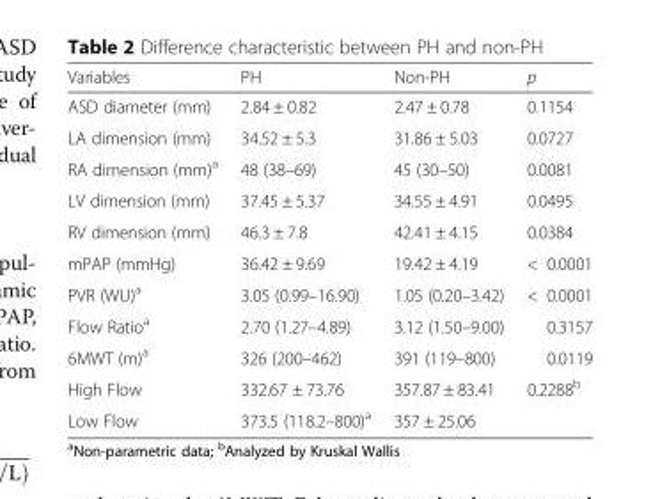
<table><thead><tr><td>Variables</td><td>PH</td><td>Non-PH</td><td>p</td></tr></thead><tbody><tr><td>ASD diameter (mm)</td><td>2.84 ± 0.82</td><td>2.47 ± 0.78</td><td>0.1154</td></tr><tr><td>LA dimension (mm)</td><td>34.52 ± 5.3</td><td>31.86 ± 5.03</td><td>0.0727</td></tr><tr><td>RA dimension (mm)<sup>a</sup></td><td>48 (38–69)</td><td>45 (30–50)</td><td>0.0081</td></tr><tr><td>LV dimension (mm)</td><td>37.45 ± 5.37</td><td>34.55 ± 4.91</td><td>0.0495</td></tr><tr><td>RV dimension (mm)</td><td>46.3 ± 7.8</td><td>42.41 ± 4.15</td><td>0.0384</td></tr><tr><td>mPAP (mmHg)</td><td>36.42 ± 9.69</td><td>19.42 ± 4.19</td><td>&lt; 0.0001</td></tr><tr><td>PVR (WU)<sup>a</sup></td><td>3.05 (0.99–16.90)</td><td>1.05 (0.20–3.42)</td><td>&lt; 0.0001</td></tr><tr><td>Flow Ratio<sup>a</sup></td><td>2.70 (1.27–4.89)</td><td>3.12 (1.50–9.00)</td><td>0.3157</td></tr><tr><td>6MWT (m)<sup>a</sup></td><td>326 (200–462)</td><td>391 (119–800)</td><td>0.0119</td></tr><tr><td>High Flow</td><td>332.67 ± 73.76</td><td>357.87 ± 83.41</td><td rowspan="2">0.2288<sup>b</sup></td></tr><tr><td>Low Flow</td><td>373.5 (118.2–800)<sup>a</sup></td><td>357 ± 25.06</td></tr></tbody></table>